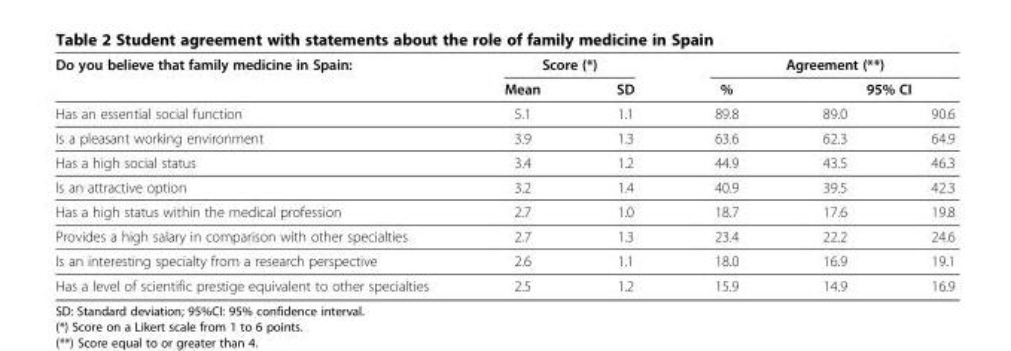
<table><thead><tr><td rowspan="3">Do you believe that family medicine in Spain: Has an essential social function</td><td colspan="2">Score (*)</td><td colspan="3">Agreement (**)</td></tr><tr><td rowspan="2">Mean 5.1</td><td rowspan="2">SD 1.1</td><td rowspan="2">% 89.8</td><td colspan="2">95% CI</td></tr><tr><td>89.0</td><td>90.6</td></tr></thead><tbody><tr><td>Is a pleasant working environment</td><td>3.9</td><td>1.3</td><td>63.6</td><td>62.3</td><td>64.9</td></tr><tr><td>Has a high social status</td><td>3.4</td><td>1.2</td><td>44.9</td><td>43.5</td><td>46.3</td></tr><tr><td>Is an attractive option</td><td>3.2</td><td>1.4</td><td>40.9</td><td>39.5</td><td>42.3</td></tr><tr><td>Has a high status within the medical profession</td><td>2.7</td><td>1.0</td><td>18.7</td><td>17.6</td><td>19.8</td></tr><tr><td>Provides a high salary in comparison with other specialties</td><td>2.7</td><td>1.3</td><td>23.4</td><td>22.2</td><td>24.6</td></tr><tr><td>Is an interesting specialty from a research perspective</td><td>2.6</td><td>1.1</td><td>18.0</td><td>16.9</td><td>19.1</td></tr><tr><td>Has a level of scientific prestige equivalent to other specialties</td><td>2.5</td><td>1.2</td><td>15.9</td><td>14.9</td><td>16.9</td></tr></tbody></table>